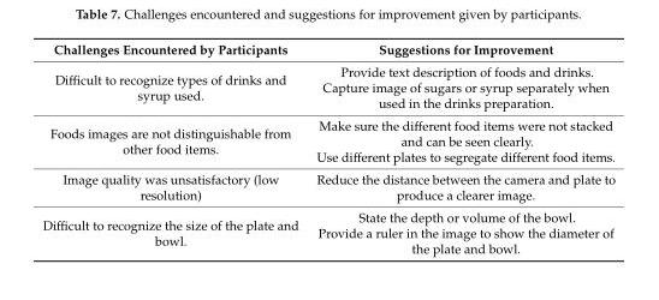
<table><thead><tr><td>Challenges Encountered by Participants</td><td>Suggestions for Improvement</td></tr></thead><tbody><tr><td>Difficult to recognize types of drinks and syrup used.</td><td>Provide text description of foods and drinks. Capture image of sugars or syrup separately when used in the drinks preparation.</td></tr><tr><td>Foods images are not distinguishable from other food items.</td><td>Make sure the different food items were not stacked and can be seen clearly. Use different plates to segregate different food items.</td></tr><tr><td>Image quality was unsatisfactory (low resolution)</td><td>Reduce the distance between the camera and plate to produce a clearer image.</td></tr><tr><td>Difficult to recognize the size of the plate and bowl.</td><td>State the depth or volume of the bowl. Provide a ruler in the image to show the diameter of the plate and bowl.</td></tr></tbody></table>